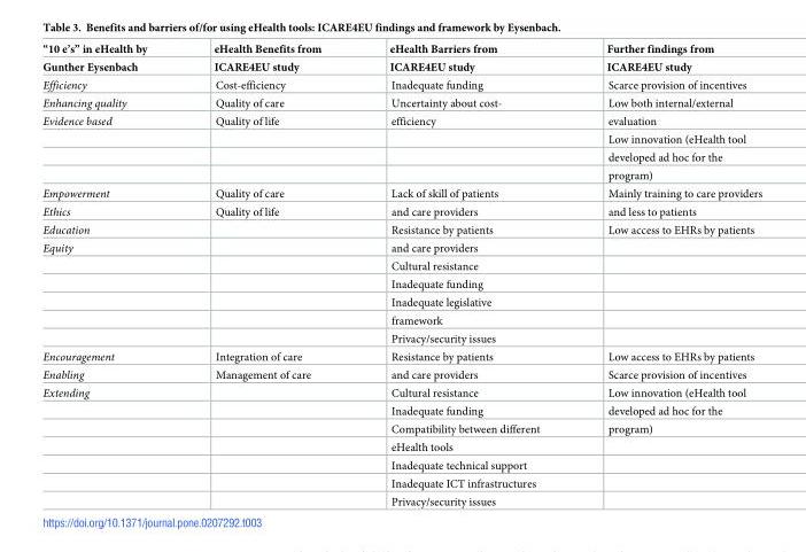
<table><thead><tr><td rowspan="2">“10 e’s” in eHealth by Gunther Eysenbach</td><td rowspan="2">eHealth Benefits from ICARE4EU study</td><td rowspan="2">eHealth Barriers from ICARE4EU study</td><td rowspan="2">Further findings from ICARE4EU study</td></tr><tr></tr></thead><tbody><tr><td>Efficiency</td><td>Cost-efficiency</td><td>Inadequate funding</td><td>Scarce provision of incentives</td></tr><tr><td>Enhancing quality</td><td>Quality of care</td><td>Uncertainty about cost-</td><td>Low both internal/external</td></tr><tr><td rowspan="4">Evidence based</td><td>Quality of life</td><td>efficiency</td><td>evaluation</td></tr><tr><td></td><td></td><td>Low innovation (eHealth tool</td></tr><tr><td></td><td></td><td>developed ad hoc for the</td></tr><tr><td></td><td></td><td>program)</td></tr><tr><td>Empowerment</td><td>Quality of care</td><td>Lack of skill of patients</td><td>Mainly training to care providers</td></tr><tr><td>Ethics</td><td>Quality of life</td><td>and care providers</td><td>and less to patients</td></tr><tr><td>Education</td><td></td><td>Resistance by patients</td><td>Low access to EHRs by patients</td></tr><tr><td rowspan="6">Equity</td><td></td><td>and care providers</td><td></td></tr><tr><td></td><td>Cultural resistance</td><td></td></tr><tr><td></td><td>Inadequate funding</td><td></td></tr><tr><td></td><td>Inadequate legislative</td><td></td></tr><tr><td></td><td>framework</td><td></td></tr><tr><td></td><td>Privacy/security issues</td><td></td></tr><tr><td>Encouragement</td><td>Integration of care</td><td>Resistance by patients</td><td>Low access to EHRs by patients</td></tr><tr><td>Enabling</td><td>Management of care</td><td>and care providers</td><td>Scarce provision of incentives</td></tr><tr><td rowspan="7">Extending</td><td></td><td>Cultural resistance</td><td>Low innovation (eHealth tool</td></tr><tr><td></td><td>Inadequate funding</td><td>developed ad hoc for the</td></tr><tr><td></td><td>Compatibility between different</td><td>program)</td></tr><tr><td></td><td>eHealth tools</td><td></td></tr><tr><td></td><td>Inadequate technical support</td><td></td></tr><tr><td></td><td>Inadequate ICT infrastructures</td><td></td></tr><tr><td></td><td>Privacy/security issues</td><td></td></tr></tbody></table>